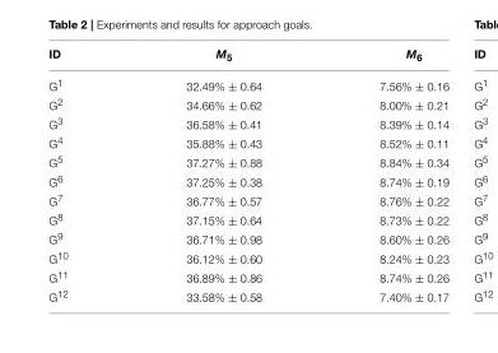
<table><thead><tr><td>ID</td><td>M<sub>5</sub></td><td>M<sub>6</sub></td></tr></thead><tbody><tr><td>G<sup>1</sup></td><td>32.49% ± 0.64</td><td>7.56% ± 0.16</td></tr><tr><td>G<sup>2</sup></td><td>34.66% ± 0.62</td><td>8.00% ± 0.21</td></tr><tr><td>G<sup>3</sup></td><td>36.58% ± 0.41</td><td>8.39% ± 0.14</td></tr><tr><td>G<sup>4</sup></td><td>35.88% ± 0.43</td><td>8.52% ± 0.11</td></tr><tr><td>G<sup>5</sup></td><td>37.27% ± 0.88</td><td>8.84% ± 0.34</td></tr><tr><td>G<sup>6</sup></td><td>37.25% ± 0.38</td><td>8.74% ± 0.19</td></tr><tr><td>G<sup>7</sup></td><td>36.77% ± 0.57</td><td>8.76% ± 0.22</td></tr><tr><td>G<sup>8</sup></td><td>37.15% ± 0.64</td><td>8.73% ± 0.22</td></tr><tr><td>G<sup>9</sup></td><td>36.71% ± 0.98</td><td>8.60% ± 0.26</td></tr><tr><td>G<sup>10</sup></td><td>36.12% ± 0.60</td><td>8.24% ± 0.23</td></tr><tr><td>G<sup>11</sup></td><td>36.89% ± 0.86</td><td>8.74% ± 0.26</td></tr><tr><td>G<sup>12</sup></td><td>33.58% ± 0.58</td><td>7.40% ± 0.17</td></tr></tbody></table>